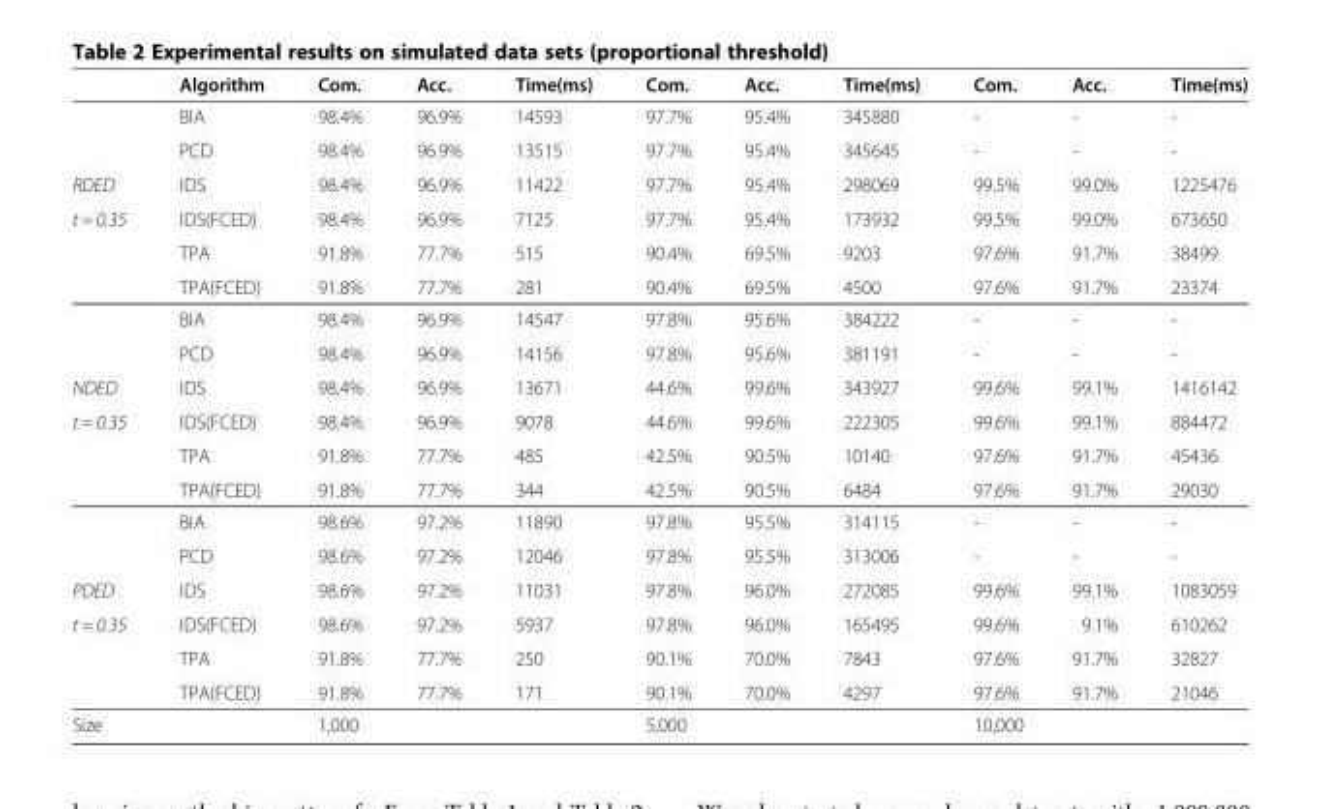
<table><thead><tr><td></td><td>Algorithm</td><td>Com.</td><td>Acc.</td><td>Time(ms)</td><td>Com.</td><td>Acc.</td><td>Time(ms)</td><td>Com.</td><td>Acc.</td><td>Time(ms)</td></tr></thead><tbody><tr><td></td><td>BIA</td><td>98.4%</td><td>96.9%</td><td>14593</td><td>97.7%</td><td>95.4%</td><td>345880</td><td>-</td><td>-</td><td>-</td></tr><tr><td></td><td>PCD</td><td>98.4%</td><td>96.9%</td><td>13515</td><td>97.7%</td><td>95.4%</td><td>345645</td><td>-</td><td>-</td><td>-</td></tr><tr><td>RDED</td><td>IDS</td><td>98.4%</td><td>96.9%</td><td>11422</td><td>97.7%</td><td>95.4%</td><td>298069</td><td>99.5%</td><td>99.0%</td><td>1225476</td></tr><tr><td rowspan="5">t = 0.35</td><td>IDS(FCED)</td><td>98.4%</td><td>96.9%</td><td>7125</td><td>97.7%</td><td>95.4%</td><td>173932</td><td>99.5%</td><td>99.0%</td><td>673650</td></tr><tr><td>TPA</td><td>91.8%</td><td>77.7%</td><td>515</td><td>90.4%</td><td>69.5%</td><td>9203</td><td>97.6%</td><td>91.7%</td><td>38499</td></tr><tr><td>TPA(FCED)</td><td>91.8%</td><td>77.7%</td><td>281</td><td>90.4%</td><td>69.5%</td><td>4500</td><td>97.6%</td><td>91.7%</td><td>23374</td></tr><tr><td>BIA</td><td>98.4%</td><td>96.9%</td><td>14547</td><td>97.8%</td><td>95.6%</td><td>384222</td><td>-</td><td>-</td><td>-</td></tr><tr><td>PCD</td><td>98.4%</td><td>96.9%</td><td>14156</td><td>97.8%</td><td>95.6%</td><td>381191</td><td>-</td><td>-</td><td>-</td></tr><tr><td>NDED</td><td>IDS</td><td>98.4%</td><td>96.9%</td><td>13671</td><td>44.6%</td><td>99.6%</td><td>343927</td><td>99.6%</td><td>99.1%</td><td>1416142</td></tr><tr><td rowspan="5">t = 0.35</td><td>IDS(FCED)</td><td>98.4%</td><td>96.9%</td><td>9078</td><td>44.6%</td><td>99.6%</td><td>222305</td><td>99.6%</td><td>99.1%</td><td>884472</td></tr><tr><td>TPA</td><td>91.8%</td><td>77.7%</td><td>485</td><td>42.5%</td><td>90.5%</td><td>10140</td><td>97.6%</td><td>91.7%</td><td>45436</td></tr><tr><td>TPA(FCED)</td><td>91.8%</td><td>77.7%</td><td>344</td><td>42.5%</td><td>90.5%</td><td>6484</td><td>97.6%</td><td>91.7%</td><td>29030</td></tr><tr><td>BIA</td><td>98.6%</td><td>97.2%</td><td>11890</td><td>97.8%</td><td>95.5%</td><td>314115</td><td>-</td><td>-</td><td>-</td></tr><tr><td>PCD</td><td>98.6%</td><td>97.2%</td><td>12046</td><td>97.8%</td><td>95.5%</td><td>313006</td><td>-</td><td>-</td><td>-</td></tr><tr><td>PDED</td><td>IDS</td><td>98.6%</td><td>97.2%</td><td>11031</td><td>97.8%</td><td>96.0%</td><td>272085</td><td>99.6%</td><td>99.1%</td><td>1083059</td></tr><tr><td rowspan="3">t = 0.35</td><td>IDS(FCED)</td><td>98.6%</td><td>97.2%</td><td>5937</td><td>97.8%</td><td>96.0%</td><td>165495</td><td>99.6%</td><td>9.1%</td><td>610262</td></tr><tr><td>TPA</td><td>91.8%</td><td>77.7%</td><td>250</td><td>90.1%</td><td>70.0%</td><td>7843</td><td>97.6%</td><td>91.7%</td><td>32827</td></tr><tr><td>TPA(FCED)</td><td>91.8%</td><td>77.7%</td><td>171</td><td>90.1%</td><td>70.0%</td><td>4297</td><td>97.6%</td><td>91.7%</td><td>21046</td></tr><tr><td>Size</td><td></td><td colspan="3">1,000</td><td colspan="3">5,000</td><td colspan="3">10,000</td></tr></tbody></table>